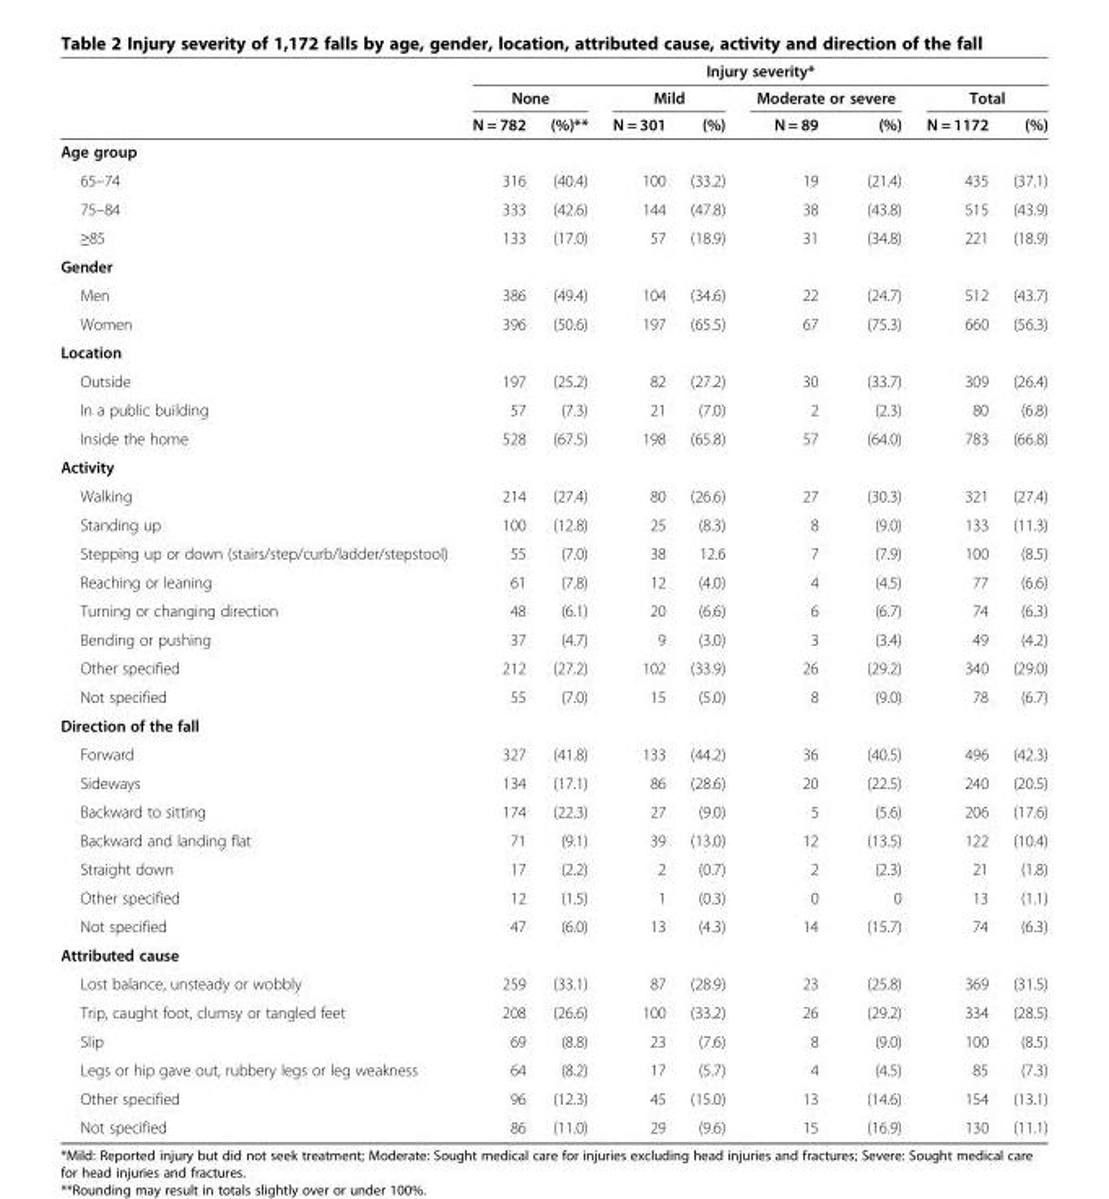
<table><thead><tr><td rowspan="3"></td><td colspan="8">Injury severity*</td></tr><tr><td colspan="2">None</td><td colspan="2">Mild</td><td colspan="2">Moderate or severe</td><td colspan="2">Total</td></tr><tr><td>N = 782</td><td>(%)**</td><td>N = 301</td><td>(%)</td><td>N = 89</td><td>(%)</td><td>N = 1172</td><td>(%)</td></tr></thead><tbody><tr><td colspan="9">Age group</td></tr><tr><td>65–74</td><td>316</td><td>(40.4)</td><td>100</td><td>(33.2)</td><td>19</td><td>(21.4)</td><td>435</td><td>(37.1)</td></tr><tr><td>75–84</td><td>333</td><td>(42.6)</td><td>144</td><td>(47.8)</td><td>38</td><td>(43.8)</td><td>515</td><td>(43.9)</td></tr><tr><td>≥85</td><td>133</td><td>(17.0)</td><td>57</td><td>(18.9)</td><td>31</td><td>(34.8)</td><td>221</td><td>(18.9)</td></tr><tr><td colspan="9">Gender</td></tr><tr><td>Men</td><td>386</td><td>(49.4)</td><td>104</td><td>(34.6)</td><td>22</td><td>(24.7)</td><td>512</td><td>(43.7)</td></tr><tr><td>Women</td><td>396</td><td>(50.6)</td><td>197</td><td>(65.5)</td><td>67</td><td>(75.3)</td><td>660</td><td>(56.3)</td></tr><tr><td colspan="9">Location</td></tr><tr><td>Outside</td><td>197</td><td>(25.2)</td><td>82</td><td>(27.2)</td><td>30</td><td>(33.7)</td><td>309</td><td>(26.4)</td></tr><tr><td>In a public building</td><td>57</td><td>(7.3)</td><td>21</td><td>(7.0)</td><td>2</td><td>(2.3)</td><td>80</td><td>(6.8)</td></tr><tr><td>Inside the home</td><td>528</td><td>(67.5)</td><td>198</td><td>(65.8)</td><td>57</td><td>(64.0)</td><td>783</td><td>(66.8)</td></tr><tr><td colspan="9">Activity</td></tr><tr><td>Walking</td><td>214</td><td>(27.4)</td><td>80</td><td>(26.6)</td><td>27</td><td>(30.3)</td><td>321</td><td>(27.4)</td></tr><tr><td>Standing up</td><td>100</td><td>(12.8)</td><td>25</td><td>(8.3)</td><td>8</td><td>(9.0)</td><td>133</td><td>(11.3)</td></tr><tr><td>Stepping up or down (stairs/step/curb/ladder/stepstool)</td><td>55</td><td>(7.0)</td><td>38</td><td>12.6</td><td>7</td><td>(7.9)</td><td>100</td><td>(8.5)</td></tr><tr><td>Reaching or leaning</td><td>61</td><td>(7.8)</td><td>12</td><td>(4.0)</td><td>4</td><td>(4.5)</td><td>77</td><td>(6.6)</td></tr><tr><td>Turning or changing direction</td><td>48</td><td>(6.1)</td><td>20</td><td>(6.6)</td><td>6</td><td>(6.7)</td><td>74</td><td>(6.3)</td></tr><tr><td>Bending or pushing</td><td>37</td><td>(4.7)</td><td>9</td><td>(3.0)</td><td>3</td><td>(3.4)</td><td>49</td><td>(4.2)</td></tr><tr><td>Other specified</td><td>212</td><td>(27.2)</td><td>102</td><td>(33.9)</td><td>26</td><td>(29.2)</td><td>340</td><td>(29.0)</td></tr><tr><td>Not specified</td><td>55</td><td>(7.0)</td><td>15</td><td>(5.0)</td><td>8</td><td>(9.0)</td><td>78</td><td>(6.7)</td></tr><tr><td colspan="9">Direction of the fall</td></tr><tr><td>Forward</td><td>327</td><td>(41.8)</td><td>133</td><td>(44.2)</td><td>36</td><td>(40.5)</td><td>496</td><td>(42.3)</td></tr><tr><td>Sideways</td><td>134</td><td>(17.1)</td><td>86</td><td>(28.6)</td><td>20</td><td>(22.5)</td><td>240</td><td>(20.5)</td></tr><tr><td>Backward to sitting</td><td>174</td><td>(22.3)</td><td>27</td><td>(9.0)</td><td>5</td><td>(5.6)</td><td>206</td><td>(17.6)</td></tr><tr><td>Backward and landing flat</td><td>71</td><td>(9.1)</td><td>39</td><td>(13.0)</td><td>12</td><td>(13.5)</td><td>122</td><td>(10.4)</td></tr><tr><td>Straight down</td><td>17</td><td>(2.2)</td><td>2</td><td>(0.7)</td><td>2</td><td>(2.3)</td><td>21</td><td>(1.8)</td></tr><tr><td>Other specified</td><td>12</td><td>(1.5)</td><td>1</td><td>(0.3)</td><td>0</td><td>0</td><td>13</td><td>(1.1)</td></tr><tr><td>Not specified</td><td>47</td><td>(6.0)</td><td>13</td><td>(4.3)</td><td>14</td><td>(15.7)</td><td>74</td><td>(6.3)</td></tr><tr><td colspan="9">Attributed cause</td></tr><tr><td>Lost balance, unsteady or wobbly</td><td>259</td><td>(33.1)</td><td>87</td><td>(28.9)</td><td>23</td><td>(25.8)</td><td>369</td><td>(31.5)</td></tr><tr><td>Trip, caught foot, clumsy or tangled feet</td><td>208</td><td>(26.6)</td><td>100</td><td>(33.2)</td><td>26</td><td>(29.2)</td><td>334</td><td>(28.5)</td></tr><tr><td>Slip</td><td>69</td><td>(8.8)</td><td>23</td><td>(7.6)</td><td>8</td><td>(9.0)</td><td>100</td><td>(8.5)</td></tr><tr><td>Legs or hip gave out, rubbery legs or leg weakness</td><td>64</td><td>(8.2)</td><td>17</td><td>(5.7)</td><td>4</td><td>(4.5)</td><td>85</td><td>(7.3)</td></tr><tr><td>Other specified</td><td>96</td><td>(12.3)</td><td>45</td><td>(15.0)</td><td>13</td><td>(14.6)</td><td>154</td><td>(13.1)</td></tr><tr><td>Not specified</td><td>86</td><td>(11.0)</td><td>29</td><td>(9.6)</td><td>15</td><td>(16.9)</td><td>130</td><td>(11.1)</td></tr></tbody></table>